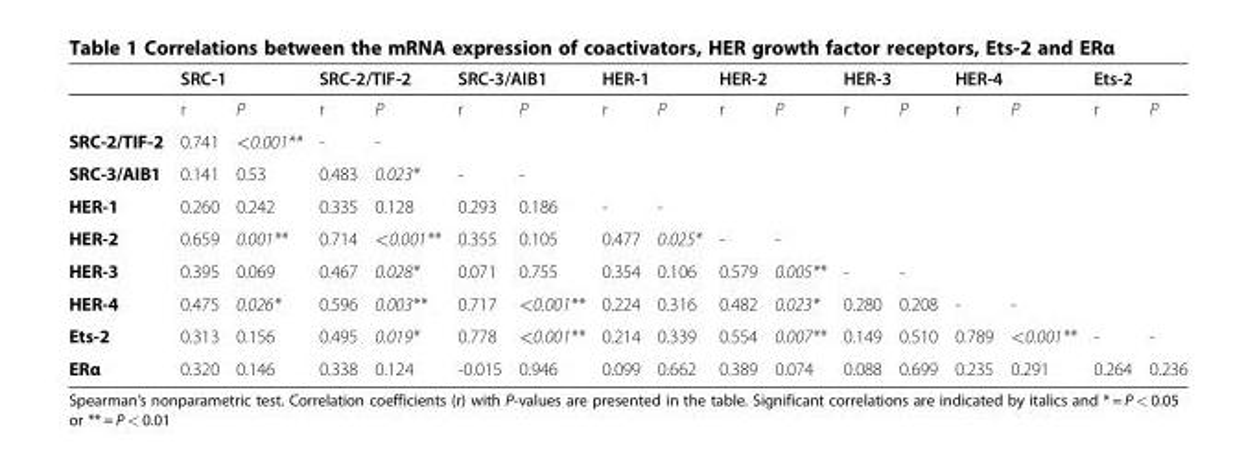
<table><thead><tr><td rowspan="2"></td><td colspan="2">SRC-1</td><td colspan="2">SRC-2/TIF-2</td><td colspan="2">SRC-3/AIB1</td><td colspan="2">HER-1</td><td colspan="2">HER-2</td><td colspan="2">HER-3</td><td colspan="2">HER-4</td><td colspan="2">Ets-2</td></tr><tr><td>r</td><td>P</td><td>r</td><td>P</td><td>r</td><td>P</td><td>r</td><td>P</td><td>r</td><td>P</td><td>r</td><td>P</td><td>r</td><td>P</td><td>r</td><td>P</td></tr></thead><tbody><tr><td>SRC-2/TIF-2</td><td>0.741</td><td>&lt;0.001**</td><td>-</td><td>-</td><td></td><td></td><td></td><td></td><td></td><td></td><td></td><td></td><td></td><td></td><td></td><td></td></tr><tr><td>SRC-3/AIB1</td><td>0.141</td><td>0.53</td><td>0.483</td><td>0.023*</td><td>-</td><td>-</td><td></td><td></td><td></td><td></td><td></td><td></td><td></td><td></td><td></td><td></td></tr><tr><td>HER-1</td><td>0.260</td><td>0.242</td><td>0.335</td><td>0.128</td><td>0.293</td><td>0.186</td><td>-</td><td>-</td><td></td><td></td><td></td><td></td><td></td><td></td><td></td><td></td></tr><tr><td>HER-2</td><td>0.659</td><td>0.001**</td><td>0.714</td><td>&lt;0.001**</td><td>0.355</td><td>0.105</td><td>0.477</td><td>0.025*</td><td>-</td><td>-</td><td></td><td></td><td></td><td></td><td></td><td></td></tr><tr><td>HER-3</td><td>0.395</td><td>0.069</td><td>0.467</td><td>0.028*</td><td>0.071</td><td>0.755</td><td>0.354</td><td>0.106</td><td>0.579</td><td>0.005**</td><td>-</td><td>-</td><td></td><td></td><td></td><td></td></tr><tr><td>HER-4</td><td>0.475</td><td>0.026*</td><td>0.596</td><td>0.003**</td><td>0.717</td><td>&lt;0.001**</td><td>0.224</td><td>0.316</td><td>0.482</td><td>0.023*</td><td>0.280</td><td>0.208</td><td>-</td><td>-</td><td></td><td></td></tr><tr><td>Ets-2</td><td>0.313</td><td>0.156</td><td>0.495</td><td>0.019*</td><td>0.778</td><td>&lt;0.001**</td><td>0.214</td><td>0.339</td><td>0.554</td><td>0.007**</td><td>0.149</td><td>0.510</td><td>0.789</td><td>&lt;0.001**</td><td>-</td><td>-</td></tr><tr><td>ERα</td><td>0.320</td><td>0.146</td><td>0.338</td><td>0.124</td><td>-0.015</td><td>0.946</td><td>0.099</td><td>0.662</td><td>0.389</td><td>0.074</td><td>0.088</td><td>0.699</td><td>0.235</td><td>0.291</td><td>0.264</td><td>0.236</td></tr></tbody></table>